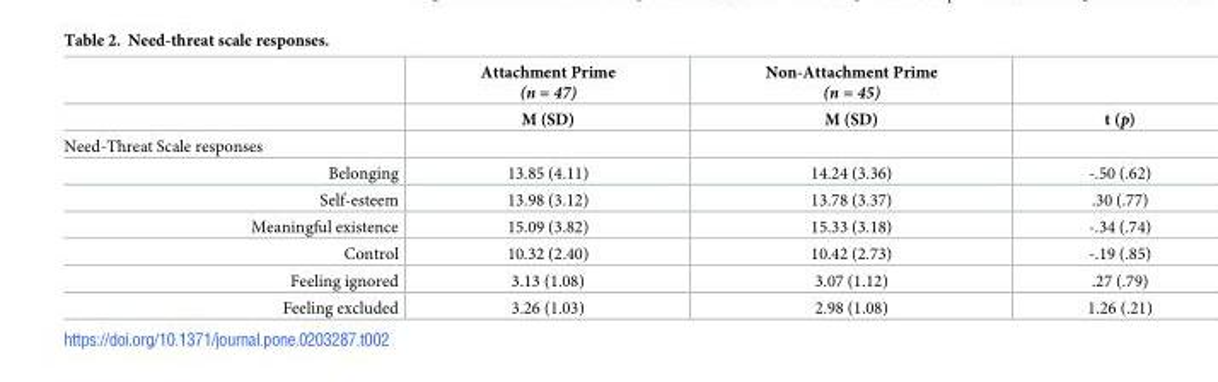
<table><thead><tr><td rowspan="2"></td><td rowspan="2">Attachment Prime (n = 47) M (SD)</td><td rowspan="2">Non-Attachment Prime (n = 45) M (SD)</td><td rowspan="2">t (p)</td></tr><tr></tr></thead><tbody><tr><td colspan="4">Need-Threat Scale responses</td></tr><tr><td>Belonging</td><td>13.85 (4.11)</td><td>14.24 (3.36)</td><td>-.50 (.62)</td></tr><tr><td>Self-esteem</td><td>13.98 (3.12)</td><td>13.78 (3.37)</td><td>.30 (.77)</td></tr><tr><td>Meaningful existence</td><td>15.09 (3.82)</td><td>15.33 (3.18)</td><td>-.34 (.74)</td></tr><tr><td>Control</td><td>10.32 (2.40)</td><td>10.42 (2.73)</td><td>-.19 (.85)</td></tr><tr><td>Feeling ignored</td><td>3.13 (1.08)</td><td>3.07 (1.12)</td><td>.27 (.79)</td></tr><tr><td>Feeling excluded</td><td>3.26 (1.03)</td><td>2.98 (1.08)</td><td>1.26 (.21)</td></tr></tbody></table>